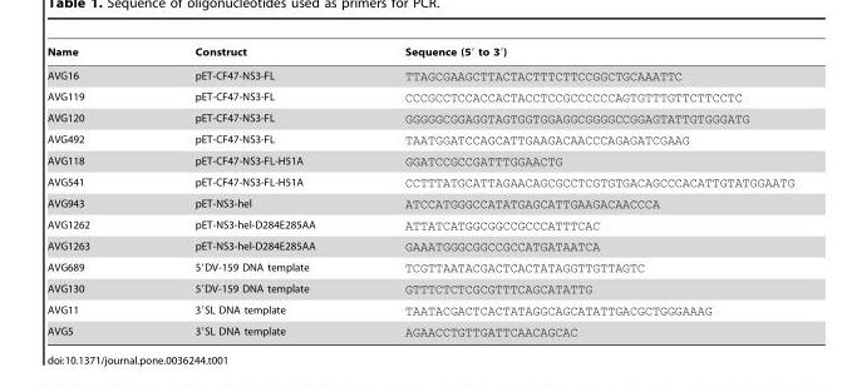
<table><thead><tr><td>Name</td><td>Construct</td><td>Sequence (5′ to 3′)</td></tr></thead><tbody><tr><td>AVG16</td><td>pET-CF47-NS3-FL</td><td>TTAGCGAAGCTTACTACTTTCTTCCGGCTGCAAATTC</td></tr><tr><td>AVG119</td><td>pET-CF47-NS3-FL</td><td>CCCGCCTCCACCACTACCTCCGCCCCCCAGTGTTTGTTCTTCCTC</td></tr><tr><td>AVG120</td><td>pET-CF47-NS3-FL</td><td>GGGGGCGGAGGTAGTGGTGGAGGCGGGGCCGGAGTATTGTGGGATG</td></tr><tr><td>AVG492</td><td>pET-CF47-NS3-FL</td><td>TAATGGATCCAGCATTGAAGACAACCCAGAGATCGAAG</td></tr><tr><td>AVG118</td><td>pET-CF47-NS3-FL-H51A</td><td>GGATCCGCCGATTTGGAACTG</td></tr><tr><td>AVG541</td><td>pET-CF47-NS3-FL-H51A</td><td>CCTTTATGCATTAGAACAGCGCCTCGTGTGACAGCCCACATTGTATGGAATG</td></tr><tr><td>AVG943</td><td>pET-NS3-hel</td><td>ATCCATGGGCCATATGAGCATTGAAGACAACCCA</td></tr><tr><td>AVG1262</td><td>pET-NS3-hel-D284E285AA</td><td>ATTATCATGGCGGCCGCCCATTTCAC</td></tr><tr><td>AVG1263</td><td>pET-NS3-hel-D284E285AA</td><td>GAAATGGGCGGCCGCCATGATAATCA</td></tr><tr><td>AVG689</td><td>5′DV-159 DNA template</td><td>TCGTTAATACGACTCACTATAGGTTGTTAGTC</td></tr><tr><td>AVG130</td><td>5′DV-159 DNA template</td><td>GTTTCTCTCGCGTTTCAGCATATTG</td></tr><tr><td>AVG11</td><td>3′SL DNA template</td><td>TAATACGACTCACTATAGGCAGCATATTGACGCTGGGAAAG</td></tr><tr><td>AVG5</td><td>3′SL DNA template</td><td>AGAACCTGTTGATTCAACAGCAC</td></tr></tbody></table>